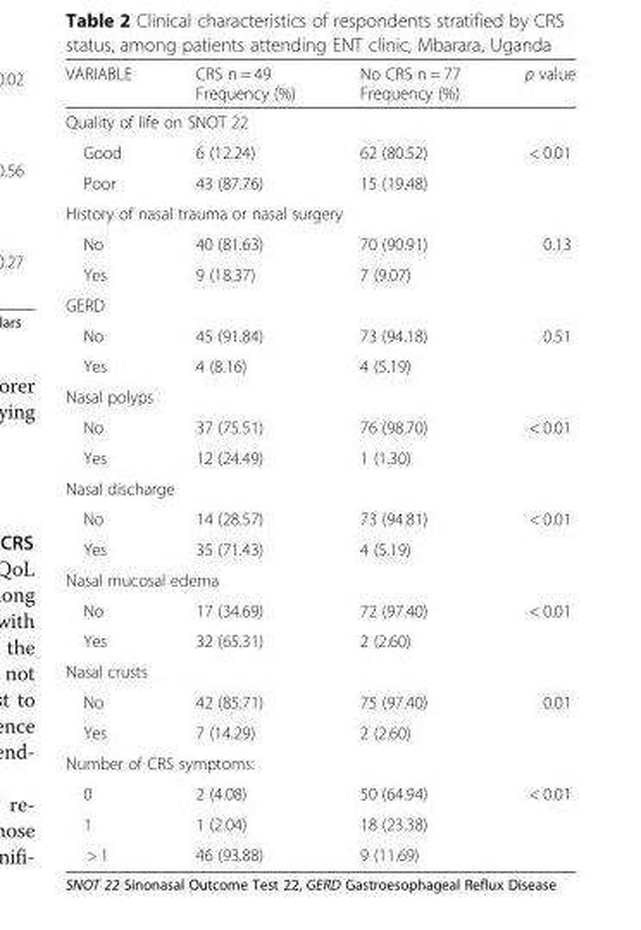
<table><thead><tr><td>VARIABLE</td><td>CRS n = 49 Frequency (%)</td><td>No CRS n = 77 Frequency (%)</td><td>p value</td></tr></thead><tbody><tr><td colspan="4">Quality of life on SNOT 22</td></tr><tr><td>Good</td><td>6 (12.24)</td><td>62 (80.52)</td><td rowspan="2">&lt; 0.01</td></tr><tr><td>Poor</td><td>43 (87.76)</td><td>15 (19.48)</td></tr><tr><td colspan="4">History of nasal trauma or nasal surgery</td></tr><tr><td>No</td><td>40 (81.63)</td><td>70 (90.91)</td><td rowspan="2">0.13</td></tr><tr><td>Yes</td><td>9 (18.37)</td><td>7 (9.07)</td></tr><tr><td colspan="4">GERD</td></tr><tr><td>No</td><td>45 (91.84)</td><td>73 (94.18)</td><td rowspan="2">0.51</td></tr><tr><td>Yes</td><td>4 (8.16)</td><td>4 (5.19)</td></tr><tr><td colspan="4">Nasal polyps</td></tr><tr><td>No</td><td>37 (75.51)</td><td>76 (98.70)</td><td rowspan="2">&lt; 0.01</td></tr><tr><td>Yes</td><td>12 (24.49)</td><td>1 (1.30)</td></tr><tr><td colspan="4">Nasal discharge</td></tr><tr><td>No</td><td>14 (28.57)</td><td>73 (94.81)</td><td rowspan="2">&lt; 0.01</td></tr><tr><td>Yes</td><td>35 (71.43)</td><td>4 (5.19)</td></tr><tr><td colspan="4">Nasal mucosal edema</td></tr><tr><td>No</td><td>17 (34.69)</td><td>72 (97.40)</td><td rowspan="2">&lt; 0.01</td></tr><tr><td>Yes</td><td>32 (65.31)</td><td>2 (2.60)</td></tr><tr><td colspan="4">Nasal crusts</td></tr><tr><td>No</td><td>42 (85.71)</td><td>75 (97.40)</td><td rowspan="2">0.01</td></tr><tr><td>Yes</td><td>7 (14.29)</td><td>2 (2.60)</td></tr><tr><td colspan="4">Number of CRS symptoms:</td></tr><tr><td>0</td><td>2 (4.08)</td><td>50 (64.94)</td><td rowspan="3">&lt; 0.01</td></tr><tr><td>1</td><td>1 (2.04)</td><td>18 (23.38)</td></tr><tr><td>&gt; 1</td><td>46 (93.88)</td><td>9 (11.69)</td></tr></tbody></table>